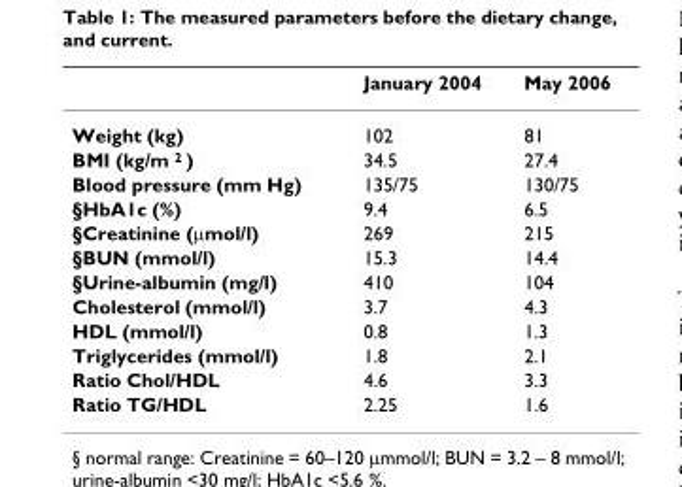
<table><thead><tr><td></td><td>January 2004</td><td>May 2006</td></tr></thead><tbody><tr><td>Weight (kg)</td><td>102</td><td>81</td></tr><tr><td>BMI (kg/m <sup>2</sup> )</td><td>34.5</td><td>27.4</td></tr><tr><td>Blood pressure (mm Hg)</td><td>135/75</td><td>130/75</td></tr><tr><td>§HbA1c (%)</td><td>9.4</td><td>6.5</td></tr><tr><td>§Creatinine (µmol/l)</td><td>269</td><td>215</td></tr><tr><td>§BUN (mmol/l)</td><td>15.3</td><td>14.4</td></tr><tr><td>§Urine-albumin (mg/l)</td><td>410</td><td>104</td></tr><tr><td>Cholesterol (mmol/l)</td><td>3.7</td><td>4.3</td></tr><tr><td>HDL (mmol/l)</td><td>0.8</td><td>1.3</td></tr><tr><td>Triglycerides (mmol/l)</td><td>1.8</td><td>2.1</td></tr><tr><td>Ratio Chol/HDL</td><td>4.6</td><td>3.3</td></tr><tr><td>Ratio TG/HDL</td><td>2.25</td><td>1.6</td></tr></tbody></table>